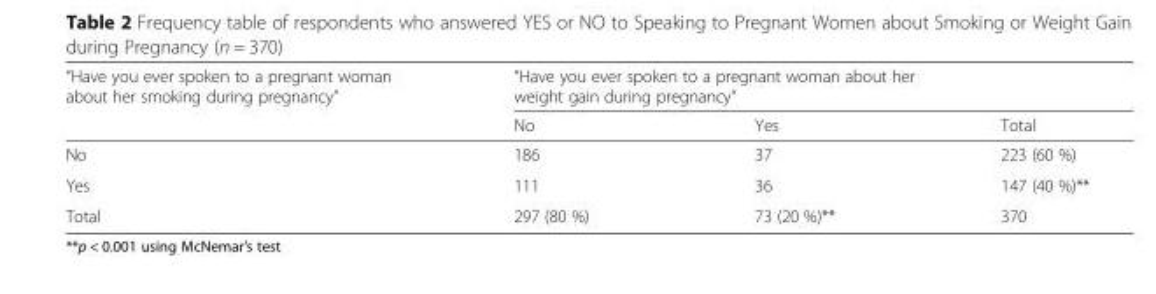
<table><thead><tr><td rowspan="2">“Have you ever spoken to a pregnant woman about her smoking during pregnancy”</td><td colspan="3">“Have you ever spoken to a pregnant woman about her weight gain during pregnancy”</td></tr><tr><td>No</td><td>Yes</td><td>Total</td></tr></thead><tbody><tr><td>No</td><td>186</td><td>37</td><td>223 (60 %)</td></tr><tr><td>Yes</td><td>111</td><td>36</td><td>147 (40 %)**</td></tr><tr><td>Total</td><td>297 (80 %)</td><td>73 (20 %)**</td><td>370</td></tr></tbody></table>